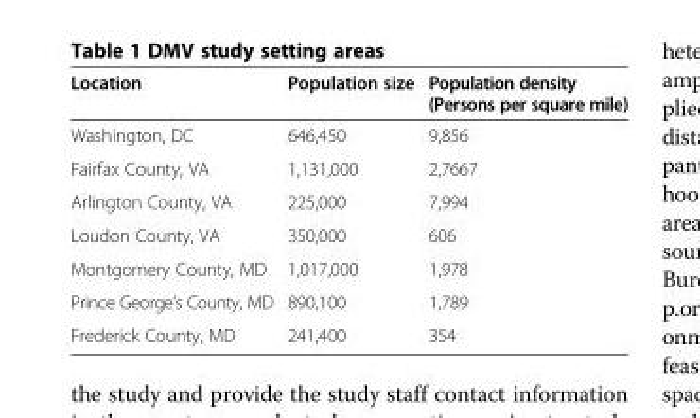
<table><thead><tr><td>Location</td><td>Population size</td><td>Population density (Persons per square mile)</td></tr></thead><tbody><tr><td>Washington, DC</td><td>646,450</td><td>9,856</td></tr><tr><td>Fairfax County, VA</td><td>1,131,000</td><td>2,7667</td></tr><tr><td>Arlington County, VA</td><td>225,000</td><td>7,994</td></tr><tr><td>Loudon County, VA</td><td>350,000</td><td>606</td></tr><tr><td>Montgomery County, MD</td><td>1,017,000</td><td>1,978</td></tr><tr><td>Prince George’s County, MD</td><td>890,100</td><td>1,789</td></tr><tr><td>Frederick County, MD</td><td>241,400</td><td>354</td></tr></tbody></table>